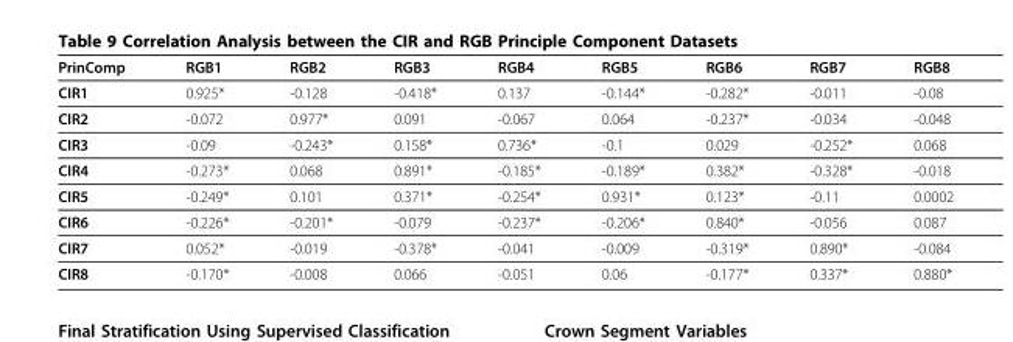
<table><thead><tr><td>PrinComp</td><td>RGB1</td><td>RGB2</td><td>RGB3</td><td>RGB4</td><td>RGB5</td><td>RGB6</td><td>RGB7</td><td>RGB8</td></tr></thead><tbody><tr><td>CIR1</td><td>0.925*</td><td>-0.128</td><td>-0.418*</td><td>0.137</td><td>-0.144*</td><td>-0.282*</td><td>-0.011</td><td>-0.08</td></tr><tr><td>CIR2</td><td>-0.072</td><td>0.977*</td><td>0.091</td><td>-0.067</td><td>0.064</td><td>-0.237*</td><td>-0.034</td><td>-0.048</td></tr><tr><td>CIR3</td><td>-0.09</td><td>-0.243*</td><td>0.158*</td><td>0.736*</td><td>-0.1</td><td>0.029</td><td>-0.252*</td><td>0.068</td></tr><tr><td>CIR4</td><td>-0.273*</td><td>0.068</td><td>0.891*</td><td>-0.185*</td><td>-0.189*</td><td>0.382*</td><td>-0.328*</td><td>-0.018</td></tr><tr><td>CIR5</td><td>-0.249*</td><td>0.101</td><td>0.371*</td><td>-0.254*</td><td>0.931*</td><td>0.123*</td><td>-0.11</td><td>0.0002</td></tr><tr><td>CIR6</td><td>-0.226*</td><td>-0.201*</td><td>-0.079</td><td>-0.237*</td><td>-0.206*</td><td>0.840*</td><td>-0.056</td><td>0.087</td></tr><tr><td>CIR7</td><td>0.052*</td><td>-0.019</td><td>-0.378*</td><td>-0.041</td><td>-0.009</td><td>-0.319*</td><td>0.890*</td><td>-0.084</td></tr><tr><td>CIR8</td><td>-0.170*</td><td>-0.008</td><td>0.066</td><td>-0.051</td><td>0.06</td><td>-0.177*</td><td>0.337*</td><td>0.880*</td></tr></tbody></table>